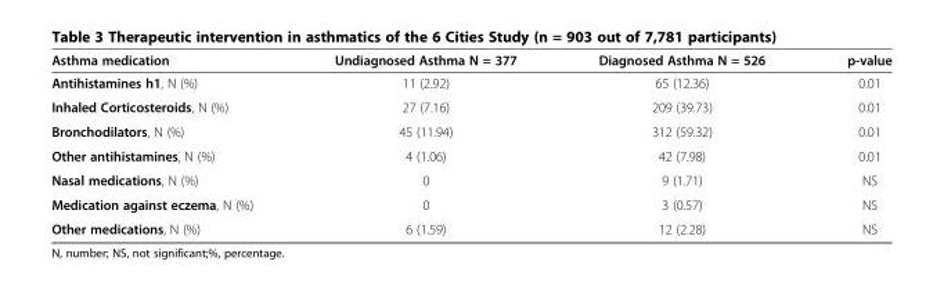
<table><thead><tr><td>Asthma medication</td><td>Undiagnosed Asthma N = 377</td><td>Diagnosed Asthma N = 526</td><td>p-value</td></tr></thead><tbody><tr><td>Antihistamines h1, N (%)</td><td>11 (2.92)</td><td>65 (12.36)</td><td>0.01</td></tr><tr><td>Inhaled Corticosteroids, N (%)</td><td>27 (7.16)</td><td>209 (39.73)</td><td>0.01</td></tr><tr><td>Bronchodilators, N (%)</td><td>45 (11.94)</td><td>312 (59.32)</td><td>0.01</td></tr><tr><td>Other antihistamines, N (%)</td><td>4 (1.06)</td><td>42 (7.98)</td><td>0.01</td></tr><tr><td>Nasal medications, N (%)</td><td>0</td><td>9 (1.71)</td><td>NS</td></tr><tr><td>Medication against eczema, N (%)</td><td>0</td><td>3 (0.57)</td><td>NS</td></tr><tr><td>Other medications, N (%)</td><td>6 (1.59)</td><td>12 (2.28)</td><td>NS</td></tr></tbody></table>